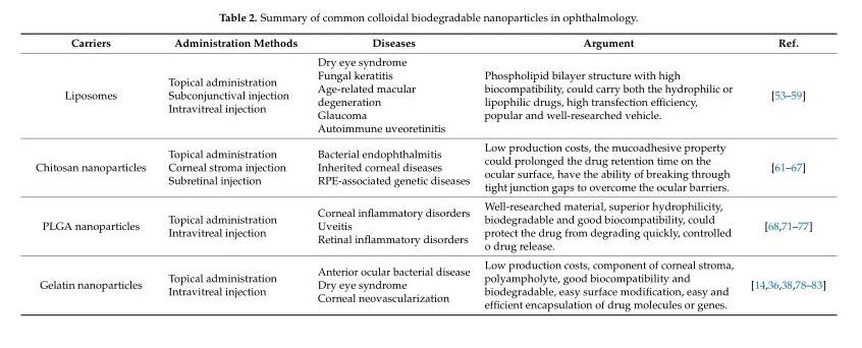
<table><thead><tr><td>Carriers</td><td>Administration Methods</td><td>Diseases</td><td>Argument</td><td>Ref.</td></tr></thead><tbody><tr><td>Liposomes</td><td>Topical administration Subconjunctival injection Intravitreal injection</td><td>Dry eye syndrome Fungal keratitis Age-related macular degeneration Glaucoma Autoimmune uveoretinitis</td><td>Phospholipid bilayer structure with high biocompatibility, could carry both the hydrophilic or lipophilic drugs, high transfection efficiency, popular and well-researched vehicle.</td><td>[53–59]</td></tr><tr><td>Chitosan nanoparticles</td><td>Topical administration Corneal stroma injection Subretinal injection</td><td>Bacterial endophthalmitis Inherited corneal diseases RPE-associated genetic diseases</td><td>Low production costs, the mucoadhesive property could prolonged the drug retention time on the ocular surface, have the ability of breaking through tight junction gaps to overcome the ocular barriers.</td><td>[61–67]</td></tr><tr><td>PLGA nanoparticles</td><td>Topical administration Intravitreal injection</td><td>Corneal inflammatory disorders Uveitis Retinal inflammatory disorders</td><td>Well-researched material, superior hydrophilicity, biodegradable and good biocompatibility, could protect the drug from degrading quickly, controlled o drug release.</td><td>[68,71–77]</td></tr><tr><td>Gelatin nanoparticles</td><td>Topical administration Intravitreal injection</td><td>Anterior ocular bacterial disease Dry eye syndrome Corneal neovascularization</td><td>Low production costs, component of corneal stroma, polyampholyte, good biocompatibility and biodegradable, easy surface modification, easy and efficient encapsulation of drug molecules or genes.</td><td>[14,36,38,78–83]</td></tr></tbody></table>